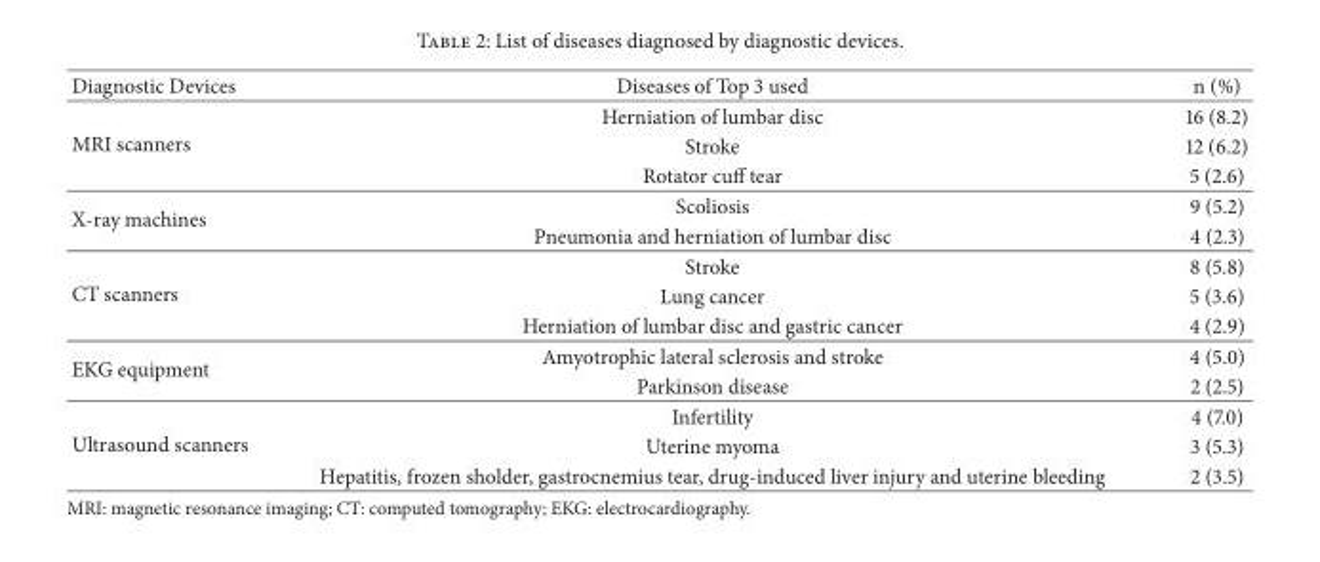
<table><thead><tr><td>Diagnostic Devices</td><td>Diseases of Top 3 used</td><td>n (%)</td></tr></thead><tbody><tr><td rowspan="3">MRI scanners</td><td>Herniation of lumbar disc</td><td>16 (8.2)</td></tr><tr><td>Stroke</td><td>12 (6.2)</td></tr><tr><td>Rotator cuff tear</td><td>5 (2.6)</td></tr><tr><td rowspan="2">X-ray machines</td><td>Scoliosis</td><td>9 (5.2)</td></tr><tr><td>Pneumonia and herniation of lumbar disc</td><td>4 (2.3)</td></tr><tr><td rowspan="3">CT scanners</td><td>Stroke</td><td>8 (5.8)</td></tr><tr><td>Lung cancer</td><td>5 (3.6)</td></tr><tr><td>Herniation of lumbar disc and gastric cancer</td><td>4 (2.9)</td></tr><tr><td rowspan="2">EKG equipment</td><td>Amyotrophic lateral sclerosis and stroke</td><td>4 (5.0)</td></tr><tr><td>Parkinson disease</td><td>2 (2.5)</td></tr><tr><td rowspan="3">Ultrasound scanners</td><td>Infertility</td><td>4 (7.0)</td></tr><tr><td>Uterine myoma</td><td>3 (5.3)</td></tr><tr><td>Hepatitis, frozen sholder, gastrocnemius tear, drug-induced liver injury and uterine bleeding</td><td>2 (3.5)</td></tr></tbody></table>